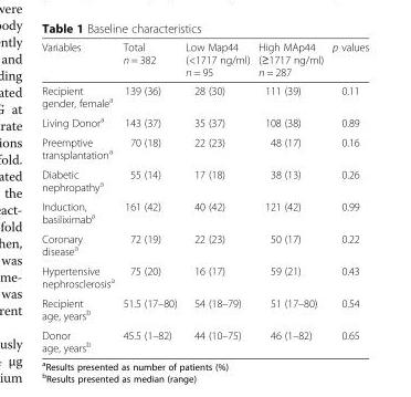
<table><thead><tr><td>Variables</td><td>Total n = 382</td><td>Low Map44 (&lt;1717 ng/ml) n = 95</td><td>High MAp44 (≥1717 ng/ml) n = 287</td><td>p values</td></tr></thead><tbody><tr><td>Recipient gender, female<sup>a</sup></td><td>139 (36)</td><td>28 (30)</td><td>111 (39)</td><td>0.11</td></tr><tr><td>Living Donor<sup>a</sup></td><td>143 (37)</td><td>35 (37)</td><td>108 (38)</td><td>0.89</td></tr><tr><td>Preemptive transplantation<sup>a</sup></td><td>70 (18)</td><td>22 (23)</td><td>48 (17)</td><td>0.16</td></tr><tr><td>Diabetic nephropathy<sup>a</sup></td><td>55 (14)</td><td>17 (18)</td><td>38 (13)</td><td>0.26</td></tr><tr><td>Induction, basiliximab<sup>a</sup></td><td>161 (42)</td><td>40 (42)</td><td>121 (42)</td><td>0.99</td></tr><tr><td>Coronary disease<sup>a</sup></td><td>72 (19)</td><td>22 (23)</td><td>50 (17)</td><td>0.22</td></tr><tr><td>Hypertensive nephrosclerosis<sup>a</sup></td><td>75 (20)</td><td>16 (17)</td><td>59 (21)</td><td>0.43</td></tr><tr><td>Recipient age, years<sup>b</sup></td><td>51.5 (17–80)</td><td>54 (18–79)</td><td>51 (17–80)</td><td>0.54</td></tr><tr><td>Donor age, years<sup>b</sup></td><td>45.5 (1–82)</td><td>44 (10–75)</td><td>46 (1–82)</td><td>0.65</td></tr></tbody></table>